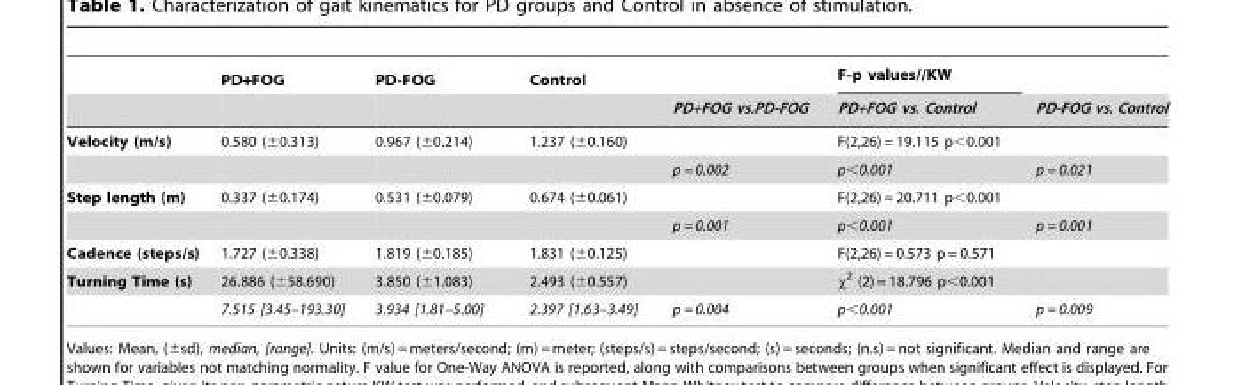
<table><thead><tr><td rowspan="2"></td><td rowspan="2">PD+FOG</td><td rowspan="2">PD-FOG</td><td rowspan="2">Control</td><td rowspan="2">PD+FOG vs.PD-FOG</td><td rowspan="2">F-p values//KW PD+FOG vs. Control</td><td rowspan="2">PD-FOG vs. Control</td></tr><tr></tr></thead><tbody><tr><td rowspan="2">Velocity (m/s)</td><td>0.580 (±0.313)</td><td>0.967 (±0.214)</td><td>1.237 (±0.160)</td><td></td><td>F(2,26) = 19.115 p&lt;0.001</td><td></td></tr><tr><td></td><td></td><td></td><td>p = 0.002</td><td>p&lt;0.001</td><td>p = 0.021</td></tr><tr><td rowspan="2">Step length (m)</td><td>0.337 (±0.174)</td><td>0.531 (±0.079)</td><td>0.674 (±0.061)</td><td></td><td>F(2,26) = 20.711 p&lt;0.001</td><td></td></tr><tr><td></td><td></td><td></td><td>p = 0.001</td><td>p&lt;0.001</td><td>p = 0.001</td></tr><tr><td>Cadence (steps/s)</td><td>1.727 (±0.338)</td><td>1.819 (±0.185)</td><td>1.831 (±0.125)</td><td></td><td>F(2,26) = 0.573 p = 0.571</td><td></td></tr><tr><td rowspan="2">Turning Time (s)</td><td>26.886 (±58.690)</td><td>3.850 (±1.083)</td><td>2.493 (±0.557)</td><td></td><td>χ<sup>2</sup> (2) = 18.796 p&lt;0.001</td><td></td></tr><tr><td>7.515 [3.45–193.30]</td><td>3.934 [1.81–5.00]</td><td>2.397 [1.63–3.49]</td><td>p = 0.004</td><td>p&lt;0.001</td><td>p = 0.009</td></tr></tbody></table>